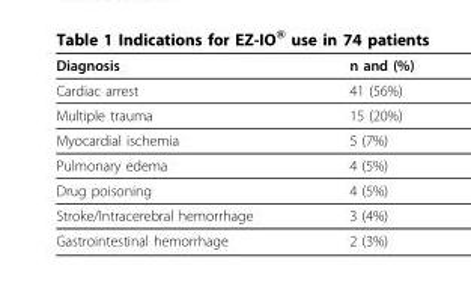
<table><thead><tr><td>Diagnosis</td><td>n and (%)</td></tr></thead><tbody><tr><td>Cardiac arrest</td><td>41 (56%)</td></tr><tr><td>Multiple trauma</td><td>15 (20%)</td></tr><tr><td>Myocardial ischemia</td><td>5 (7%)</td></tr><tr><td>Pulmonary edema</td><td>4 (5%)</td></tr><tr><td>Drug poisoning</td><td>4 (5%)</td></tr><tr><td>Stroke/Intracerebral hemorrhage</td><td>3 (4%)</td></tr><tr><td>Gastrointestinal hemorrhage</td><td>2 (3%)</td></tr></tbody></table>